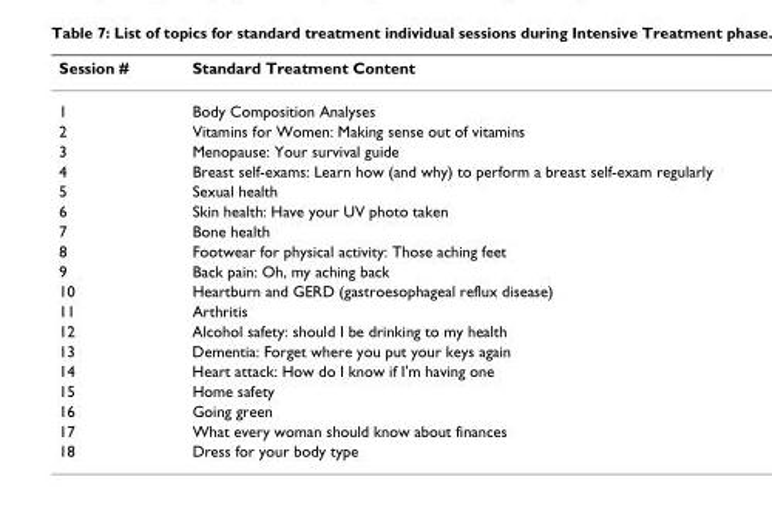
<table><thead><tr><td>Session #</td><td>Standard Treatment Content</td></tr></thead><tbody><tr><td>1</td><td>Body Composition Analyses</td></tr><tr><td>2</td><td>Vitamins for Women: Making sense out of vitamins</td></tr><tr><td>3</td><td>Menopause: Your survival guide</td></tr><tr><td>4</td><td>Breast self-exams: Learn how (and why) to perform a breast self-exam regularly</td></tr><tr><td>5</td><td>Sexual health</td></tr><tr><td>6</td><td>Skin health: Have your UV photo taken</td></tr><tr><td>7</td><td>Bone health</td></tr><tr><td>8</td><td>Footwear for physical activity: Those aching feet</td></tr><tr><td>9</td><td>Back pain: Oh, my aching back</td></tr><tr><td>10</td><td>Heartburn and GERD (gastroesophageal reflux disease)</td></tr><tr><td>11</td><td>Arthritis</td></tr><tr><td>12</td><td>Alcohol safety: should I be drinking to my health</td></tr><tr><td>13</td><td>Dementia: Forget where you put your keys again</td></tr><tr><td>14</td><td>Heart attack: How do I know if I&#x27;m having one</td></tr><tr><td>15</td><td>Home safety</td></tr><tr><td>16</td><td>Going green</td></tr><tr><td>17</td><td>What every woman should know about finances</td></tr><tr><td>18</td><td>Dress for your body type</td></tr></tbody></table>